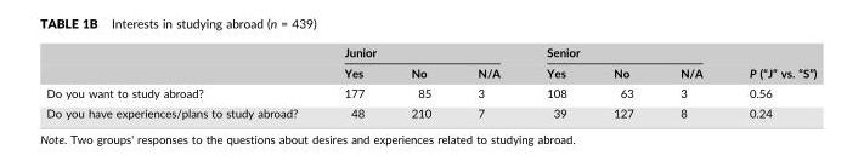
<table><thead><tr><td rowspan="2"></td><td colspan="3">Junior</td><td colspan="3">Senior</td><td rowspan="2">P (“J” vs. “S”)</td></tr><tr><td>Yes</td><td>No</td><td>N/A</td><td>Yes</td><td>No</td><td>N/A</td></tr></thead><tbody><tr><td>Do you want to study abroad?</td><td>177</td><td>85</td><td>3</td><td>108</td><td>63</td><td>3</td><td>0.56</td></tr><tr><td>Do you have experiences/plans to study abroad?</td><td>48</td><td>210</td><td>7</td><td>39</td><td>127</td><td>8</td><td>0.24</td></tr></tbody></table>